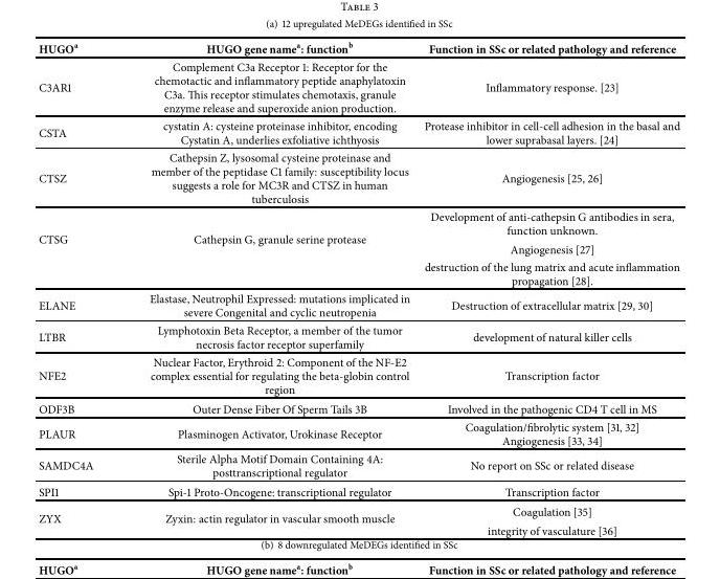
<table><thead><tr><td>HUGO<sup>a</sup></td><td>HUGO gene name<sup>a</sup>: function<sup>b</sup></td><td>Function in SSc or related pathology and reference</td></tr></thead><tbody><tr><td>C3AR1</td><td>Complement C3a Receptor 1: Receptor for the chemotactic and inflammatory peptide anaphylatoxin C3a. This receptor stimulates chemotaxis, granule enzyme release and superoxide anion production.</td><td>Inflammatory response. [23]</td></tr><tr><td>CSTA</td><td>cystatin A: cysteine proteinase inhibitor, encoding Cystatin A, underlies exfoliative ichthyosis</td><td>Protease inhibitor in cell-cell adhesion in the basal and lower suprabasal layers. [24]</td></tr><tr><td>CTSZ</td><td>Cathepsin Z, lysosomal cysteine proteinase and member of the peptidase C1 family: susceptibility locus suggests a role for MC3R and CTSZ in human tuberculosis</td><td>Angiogenesis [25, 26]</td></tr><tr><td rowspan="3">CTSG</td><td rowspan="3">Cathepsin G, granule serine protease</td><td>Development of anti-cathepsin G antibodies in sera, function unknown.</td></tr><tr><td>Angiogenesis [27]</td></tr><tr><td>destruction of the lung matrix and acute inflammation propagation [28].</td></tr><tr><td>ELANE</td><td>Elastase, Neutrophil Expressed: mutations implicated in severe Congenital and cyclic neutropenia</td><td>Destruction of extracellular matrix [29, 30]</td></tr><tr><td>LTBR</td><td>Lymphotoxin Beta Receptor, a member of the tumor necrosis factor receptor superfamily</td><td>development of natural killer cells</td></tr><tr><td>NFE2</td><td>Nuclear Factor, Erythroid 2: Component of the NF-E2 complex essential for regulating the beta-globin control region</td><td>Transcription factor</td></tr><tr><td>ODF3B</td><td>Outer Dense Fiber Of Sperm Tails 3B</td><td>Involved in the pathogenic CD4 T cell in MS</td></tr><tr><td>PLAUR</td><td>Plasminogen Activator, Urokinase Receptor</td><td>Coagulation/fibrolytic system [31, 32] Angiogenesis [33, 34]</td></tr><tr><td>SAMDC4A</td><td>Sterile Alpha Motif Domain Containing 4A: posttranscriptional regulator</td><td>No report on SSc or related disease</td></tr><tr><td>SPI1</td><td>Spi-1 Proto-Oncogene: transcriptional regulator</td><td>Transcription factor</td></tr><tr><td rowspan="2">ZYX</td><td rowspan="2">Zyxin: actin regulator in vascular smooth muscle</td><td>Coagulation [35]</td></tr><tr><td>integrity of vasculature [36]</td></tr></tbody></table>